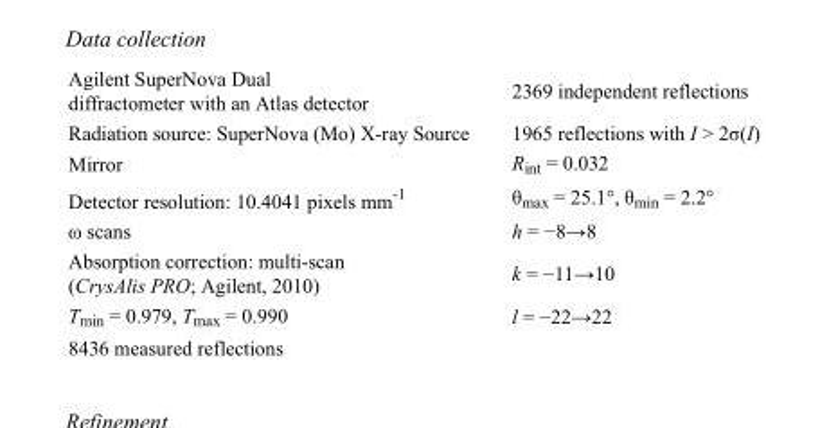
<table><tbody><tr><td>Agilent SuperNova Dual diffractometer with an Atlas detector</td><td>2369 independent reflections</td></tr><tr><td>Radiation source: SuperNova (Mo) X-ray Source</td><td>1965 reflections with I &gt; 2σ(I)</td></tr><tr><td>Mirror</td><td>R<sub>int</sub> = 0.032</td></tr><tr><td>Detector resolution: 10.4041 pixels mm<sup>-1</sup></td><td>θ<sub>max</sub> = 25.1°, θ<sub>min</sub> = 2.2°</td></tr><tr><td>ω scans</td><td>h = −8→8</td></tr><tr><td>Absorption correction: multi-scan (CrysAlis PRO; Agilent, 2010)</td><td>k = −11→10</td></tr><tr><td>T<sub>min</sub> = 0.979, T<sub>max</sub> = 0.990</td><td>l = −22→22</td></tr><tr><td>8436 measured reflections</td><td></td></tr></tbody></table>